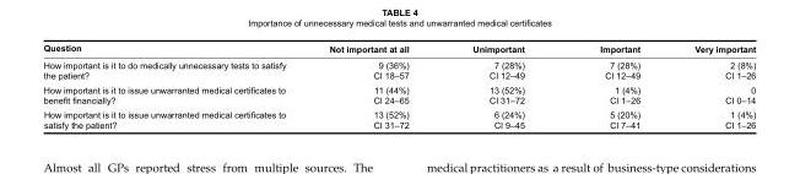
<table><thead><tr><td>Question</td><td>Not important at all</td><td>Unimportant</td><td>Important</td><td>Very important</td></tr></thead><tbody><tr><td>How important is it to do medically unnecessary tests to satisfy the patient?</td><td>9 (36%) CI 18–57</td><td>7 (28%) CI 12–49</td><td>7 (28%) CI 12–49</td><td>2 (8%) CI 1–26</td></tr><tr><td>How important is it to issue unwarranted medical certificates to benefit financially?</td><td>11 (44%) CI 24–65</td><td>13 (52%) CI 31–72</td><td>1 (4%) CI 1–26</td><td>0 CI 0–14</td></tr><tr><td>How important is it to issue unwarranted medical certificates to satisfy the patient?</td><td>13 (52%) CI 31–72</td><td>6 (24%) CI 9–45</td><td>5 (20%) CI 7–41</td><td>1 (4%) CI 1–26</td></tr></tbody></table>